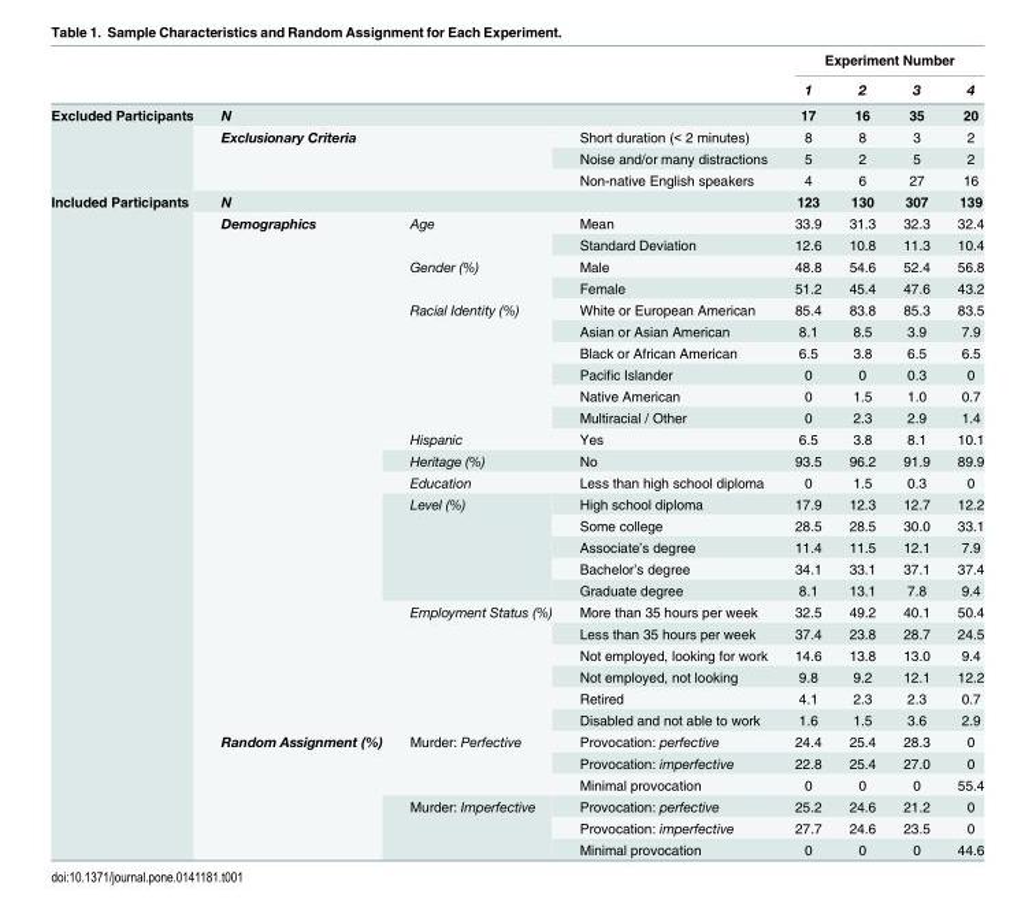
<table><thead><tr><td rowspan="2"></td><td rowspan="2"></td><td rowspan="2"></td><td rowspan="2"></td><td colspan="4">Experiment Number</td></tr><tr><td>1</td><td>2</td><td>3</td><td>4</td></tr></thead><tbody><tr><td rowspan="4">Excluded Participants</td><td colspan="3">N</td><td>17</td><td>16</td><td>35</td><td>20</td></tr><tr><td rowspan="3" colspan="2">Exclusionary Criteria</td><td>Short duration (&lt; 2 minutes)</td><td>8</td><td>8</td><td>3</td><td>2</td></tr><tr><td>Noise and/or many distractions</td><td>5</td><td>2</td><td>5</td><td>2</td></tr><tr><td>Non-native English speakers</td><td>4</td><td>6</td><td>27</td><td>16</td></tr><tr><td rowspan="31">Included Participants</td><td colspan="3">N</td><td>123</td><td>130</td><td>307</td><td>139</td></tr><tr><td rowspan="24">Demographics</td><td rowspan="2">Age</td><td>Mean</td><td>33.9</td><td>31.3</td><td>32.3</td><td>32.4</td></tr><tr><td>Standard Deviation</td><td>12.6</td><td>10.8</td><td>11.3</td><td>10.4</td></tr><tr><td rowspan="2">Gender (%)</td><td>Male</td><td>48.8</td><td>54.6</td><td>52.4</td><td>56.8</td></tr><tr><td>Female</td><td>51.2</td><td>45.4</td><td>47.6</td><td>43.2</td></tr><tr><td rowspan="6">Racial Identity (%)</td><td>White or European American</td><td>85.4</td><td>83.8</td><td>85.3</td><td>83.5</td></tr><tr><td>Asian or Asian American</td><td>8.1</td><td>8.5</td><td>3.9</td><td>7.9</td></tr><tr><td>Black or African American</td><td>6.5</td><td>3.8</td><td>6.5</td><td>6.5</td></tr><tr><td>Pacific Islander</td><td>0</td><td>0</td><td>0.3</td><td>0</td></tr><tr><td>Native American</td><td>0</td><td>1.5</td><td>1.0</td><td>0.7</td></tr><tr><td>Multiracial / Other</td><td>0</td><td>2.3</td><td>2.9</td><td>1.4</td></tr><tr><td>Hispanic</td><td>Yes</td><td>6.5</td><td>3.8</td><td>8.1</td><td>10.1</td></tr><tr><td>Heritage (%)</td><td>No</td><td>93.5</td><td>96.2</td><td>91.9</td><td>89.9</td></tr><tr><td>Education</td><td>Less than high school diploma</td><td>0</td><td>1.5</td><td>0.3</td><td>0</td></tr><tr><td rowspan="5">Level (%)</td><td>High school diploma</td><td>17.9</td><td>12.3</td><td>12.7</td><td>12.2</td></tr><tr><td>Some college</td><td>28.5</td><td>28.5</td><td>30.0</td><td>33.1</td></tr><tr><td>Associate’s degree</td><td>11.4</td><td>11.5</td><td>12.1</td><td>7.9</td></tr><tr><td>Bachelor’s degree</td><td>34.1</td><td>33.1</td><td>37.1</td><td>37.4</td></tr><tr><td>Graduate degree</td><td>8.1</td><td>13.1</td><td>7.8</td><td>9.4</td></tr><tr><td rowspan="6">Employment Status (%)</td><td>More than 35 hours per week</td><td>32.5</td><td>49.2</td><td>40.1</td><td>50.4</td></tr><tr><td>Less than 35 hours per week</td><td>37.4</td><td>23.8</td><td>28.7</td><td>24.5</td></tr><tr><td>Not employed, looking for work</td><td>14.6</td><td>13.8</td><td>13.0</td><td>9.4</td></tr><tr><td>Not employed, not looking</td><td>9.8</td><td>9.2</td><td>12.1</td><td>12.2</td></tr><tr><td>Retired</td><td>4.1</td><td>2.3</td><td>2.3</td><td>0.7</td></tr><tr><td>Disabled and not able to work</td><td>1.6</td><td>1.5</td><td>3.6</td><td>2.9</td></tr><tr><td rowspan="6">Random Assignment (%)</td><td rowspan="3">Murder: Perfective</td><td>Provocation: perfective</td><td>24.4</td><td>25.4</td><td>28.3</td><td>0</td></tr><tr><td>Provocation: imperfective</td><td>22.8</td><td>25.4</td><td>27.0</td><td>0</td></tr><tr><td>Minimal provocation</td><td>0</td><td>0</td><td>0</td><td>55.4</td></tr><tr><td rowspan="3">Murder: Imperfective</td><td>Provocation: perfective</td><td>25.2</td><td>24.6</td><td>21.2</td><td>0</td></tr><tr><td>Provocation: imperfective</td><td>27.7</td><td>24.6</td><td>23.5</td><td>0</td></tr><tr><td>Minimal provocation</td><td>0</td><td>0</td><td>0</td><td>44.6</td></tr></tbody></table>